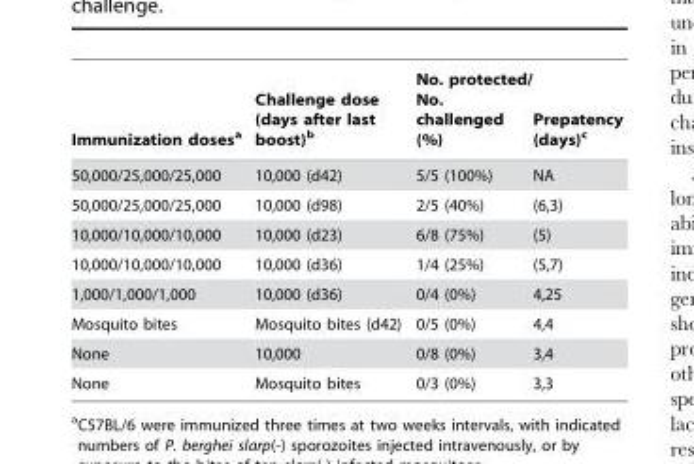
<table><thead><tr><td>Immunization doses<sup>a</sup></td><td>Challenge dose (days after last boost)<sup>b</sup></td><td>No. protected/ No. challenged (%)</td><td>Prepatency (days)<sup>c</sup></td></tr></thead><tbody><tr><td>50,000/25,000/25,000</td><td>10,000 (d42)</td><td>5/5 (100%)</td><td>NA</td></tr><tr><td>50,000/25,000/25,000</td><td>10,000 (d98)</td><td>2/5 (40%)</td><td>(6,3)</td></tr><tr><td>10,000/10,000/10,000</td><td>10,000 (d23)</td><td>6/8 (75%)</td><td>(5)</td></tr><tr><td>10,000/10,000/10,000</td><td>10,000 (d36)</td><td>1/4 (25%)</td><td>(5,7)</td></tr><tr><td>1,000/1,000/1,000</td><td>10,000 (d36)</td><td>0/4 (0%)</td><td>4,25</td></tr><tr><td>Mosquito bites</td><td>Mosquito bites (d42)</td><td>0/5 (0%)</td><td>4,4</td></tr><tr><td>None</td><td>10,000</td><td>0/8 (0%)</td><td>3,4</td></tr><tr><td>None</td><td>Mosquito bites</td><td>0/3 (0%)</td><td>3,3</td></tr></tbody></table>